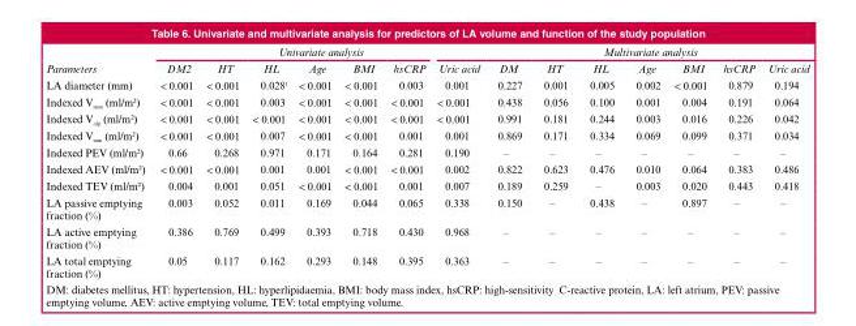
<table><thead><tr><td rowspan="2">Parameters</td><td colspan="6">Univariate analysis</td><td colspan="7">Multivariate analysis</td><td rowspan="2">Uric acid</td></tr><tr><td>DM2</td><td>HT</td><td>HL</td><td>Age</td><td>BMI</td><td>hsCRP</td><td>Uric acid</td><td>DM</td><td>HT</td><td>HL</td><td>Age</td><td>BMI</td><td>hsCRP</td></tr></thead><tbody><tr><td>LA diameter (mm)</td><td>&lt; 0.001</td><td>&lt; 0.001</td><td>0.028<sup>1</sup></td><td>&lt; 0.001</td><td>&lt; 0.001</td><td>0.003</td><td>0.001</td><td>0.227</td><td>0.001</td><td>0.005</td><td>0.002</td><td>&lt; 0.001</td><td>0.879</td><td>0.194</td></tr><tr><td>Indexed Vmax (ml/m²)</td><td>&lt; 0.001</td><td>&lt; 0.001</td><td>0.003</td><td>&lt; 0.001</td><td>&lt; 0.001</td><td>&lt; 0.001</td><td>&lt; 0.001</td><td>0.438</td><td>0.056</td><td>0.100</td><td>0.001</td><td>0.004</td><td>0.191</td><td>0.064</td></tr><tr><td>Indexed Volp (ml/m²)</td><td>&lt; 0.001</td><td>&lt; 0.001</td><td>&lt; 0.001</td><td>&lt; 0.001</td><td>&lt; 0.001</td><td>&lt; 0.001</td><td>&lt; 0.001</td><td>0.991</td><td>0.181</td><td>0.244</td><td>0.003</td><td>0.016</td><td>0.226</td><td>0.042</td></tr><tr><td>Indexed Vmin (ml/m²)</td><td>&lt; 0.001</td><td>&lt; 0.001</td><td>0.007</td><td>&lt; 0.001</td><td>&lt; 0.001</td><td>0.001</td><td>0.001</td><td>0.869</td><td>0.171</td><td>0.334</td><td>0.069</td><td>0.099</td><td>0.371</td><td>0.034</td></tr><tr><td>Indexed PEV (ml/m²)</td><td>0.66</td><td>0.268</td><td>0.971</td><td>0.171</td><td>0.164</td><td>0.281</td><td>0.190</td><td>–</td><td>–</td><td>–</td><td>–</td><td>–</td><td>–</td><td>–</td></tr><tr><td>Indexed AEV (ml/m²)</td><td>&lt; 0.001</td><td>&lt; 0.001</td><td>0.001</td><td>0.001</td><td>&lt; 0.001</td><td>&lt; 0.001</td><td>0.002</td><td>0.822</td><td>0.623</td><td>0.476</td><td>0.010</td><td>0.064</td><td>0.383</td><td>0.486</td></tr><tr><td>Indexed TEV (ml/m²)</td><td>0.004</td><td>0.001</td><td>0.051</td><td>&lt; 0.001</td><td>&lt; 0.001</td><td>0.001</td><td>0.007</td><td>0.189</td><td>0.259</td><td>–</td><td>0.003</td><td>0.020</td><td>0.443</td><td>0.418</td></tr><tr><td>LA passive emptying fraction (%)</td><td>0.003</td><td>0.052</td><td>0.011</td><td>0.169</td><td>0.044</td><td>0.065</td><td>0.338</td><td>0.150</td><td>–</td><td>0.438</td><td>–</td><td>0.897</td><td>–</td><td>–</td></tr><tr><td>LA active emptying fraction (%)</td><td>0.386</td><td>0.769</td><td>0.499</td><td>0.393</td><td>0.718</td><td>0.430</td><td>0.968</td><td>–</td><td>–</td><td>–</td><td>–</td><td>–</td><td>–</td><td>–</td></tr><tr><td>LA total emptying fraction (%)</td><td>0.05</td><td>0.117</td><td>0.162</td><td>0.293</td><td>0.148</td><td>0.395</td><td>0.363</td><td>–</td><td>–</td><td>–</td><td>–</td><td>–</td><td>–</td><td>–</td></tr></tbody></table>